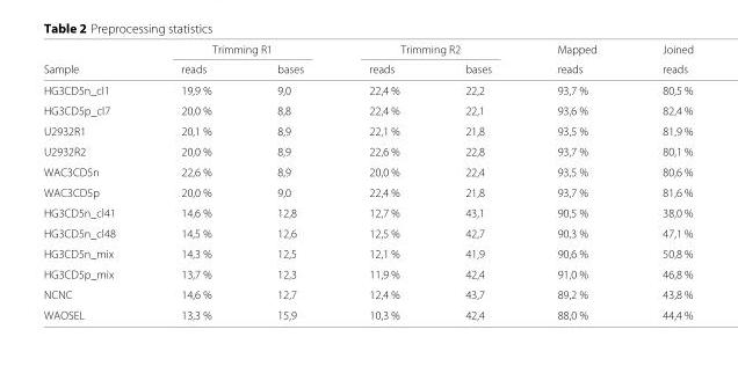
<table><thead><tr><td rowspan="2">Sample</td><td colspan="2">Trimming R1</td><td colspan="2">Trimming R2</td><td rowspan="2">Mapped reads</td><td rowspan="2">Joined reads</td></tr><tr><td>reads</td><td>bases</td><td>reads</td><td>bases</td></tr></thead><tbody><tr><td>HG3CD5n_cl1</td><td>19,9 %</td><td>9,0</td><td>22,4 %</td><td>22,2</td><td>93,7 %</td><td>80,5 %</td></tr><tr><td>HG3CD5p_cl7</td><td>20,0 %</td><td>8,8</td><td>22,4 %</td><td>22,1</td><td>93,6 %</td><td>82,4 %</td></tr><tr><td>U2932R1</td><td>20,1 %</td><td>8,9</td><td>22,1 %</td><td>21,8</td><td>93,5 %</td><td>81,9 %</td></tr><tr><td>U2932R2</td><td>20,0 %</td><td>8,9</td><td>22,6 %</td><td>22,8</td><td>93,7 %</td><td>80,1 %</td></tr><tr><td>WAC3CD5n</td><td>22,6 %</td><td>8,9</td><td>20,0 %</td><td>22,4</td><td>93,5 %</td><td>80,6 %</td></tr><tr><td>WAC3CD5p</td><td>20,0 %</td><td>9,0</td><td>22,4 %</td><td>21,8</td><td>93,7 %</td><td>81,6 %</td></tr><tr><td>HG3CD5n_cl41</td><td>14,6 %</td><td>12,8</td><td>12,7 %</td><td>43,1</td><td>90,5 %</td><td>38,0 %</td></tr><tr><td>HG3CD5n_cl48</td><td>14,5 %</td><td>12,6</td><td>12,5 %</td><td>42,7</td><td>90,3 %</td><td>47,1 %</td></tr><tr><td>HG3CD5n_mix</td><td>14,3 %</td><td>12,5</td><td>12,1 %</td><td>41,9</td><td>90,6 %</td><td>50,8 %</td></tr><tr><td>HG3CD5p_mix</td><td>13,7 %</td><td>12,3</td><td>11,9 %</td><td>42,4</td><td>91,0 %</td><td>46,8 %</td></tr><tr><td>NCNC</td><td>14,6 %</td><td>12,7</td><td>12,4 %</td><td>43,7</td><td>89,2 %</td><td>43,8 %</td></tr><tr><td>WAOSEL</td><td>13,3 %</td><td>15,9</td><td>10,3 %</td><td>42,4</td><td>88,0 %</td><td>44,4 %</td></tr></tbody></table>